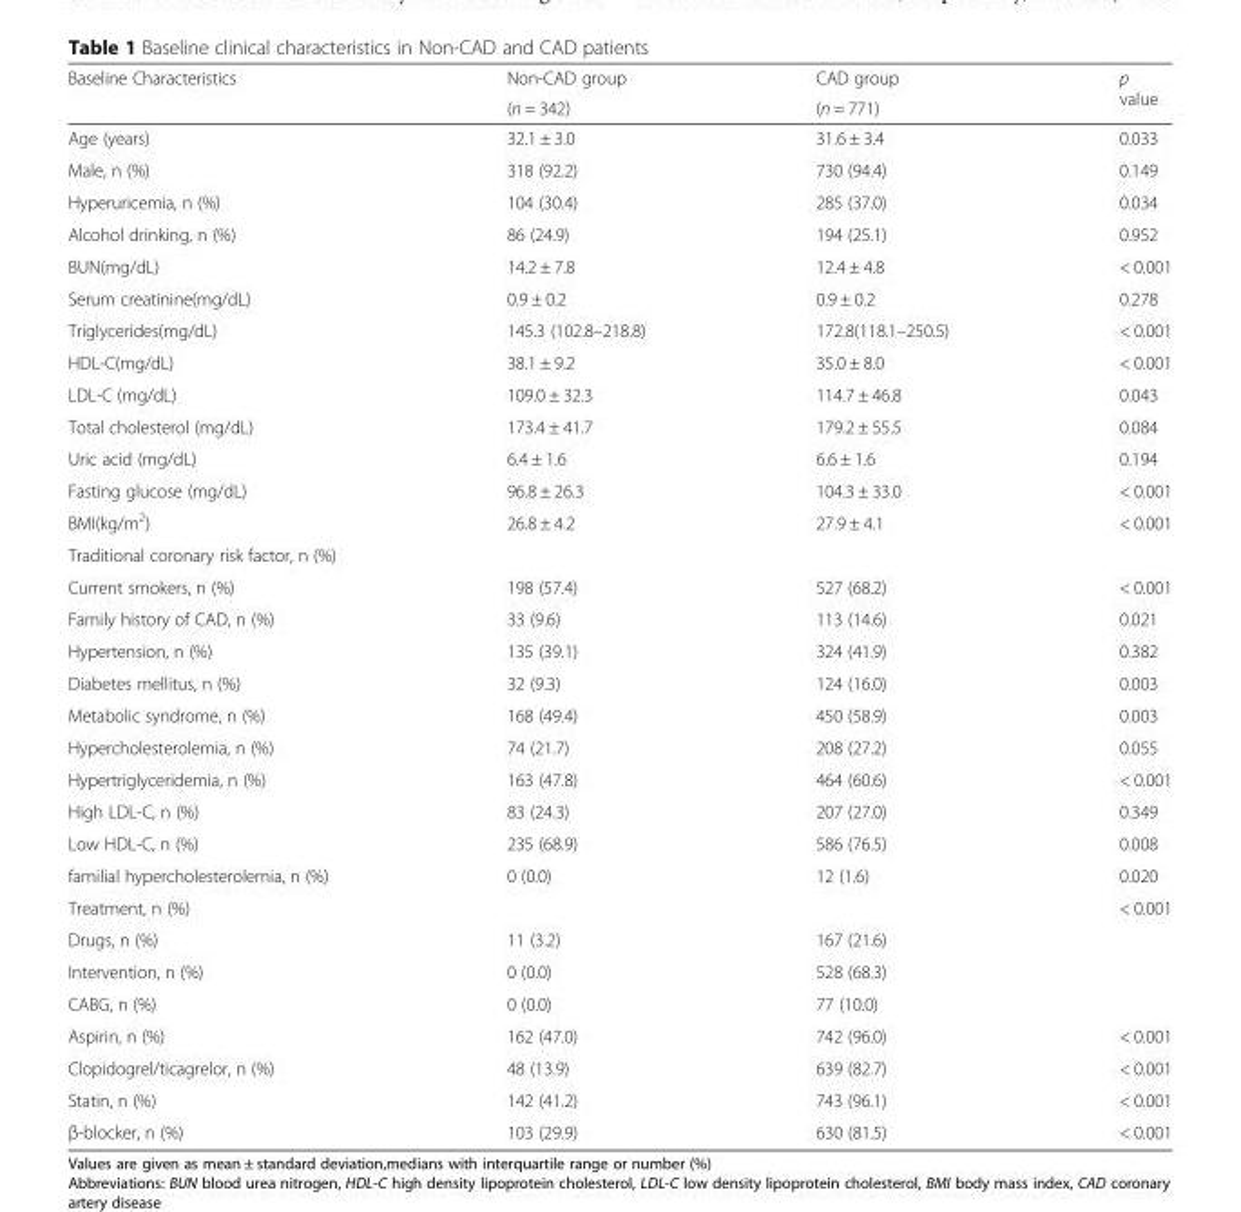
<table><thead><tr><td rowspan="2">Baseline Characteristics</td><td rowspan="2">Non-CAD group (n = 342)</td><td rowspan="2">CAD group (n = 771)</td><td rowspan="2">p value</td></tr><tr></tr></thead><tbody><tr><td>Age (years)</td><td>32.1 ± 3.0</td><td>31.6 ± 3.4</td><td>0.033</td></tr><tr><td>Male, n (%)</td><td>318 (92.2)</td><td>730 (94.4)</td><td>0.149</td></tr><tr><td>Hyperuricemia, n (%)</td><td>104 (30.4)</td><td>285 (37.0)</td><td>0.034</td></tr><tr><td>Alcohol drinking, n (%)</td><td>86 (24.9)</td><td>194 (25.1)</td><td>0.952</td></tr><tr><td>BUN(mg/dL)</td><td>14.2 ± 7.8</td><td>12.4 ± 4.8</td><td>&lt; 0.001</td></tr><tr><td>Serum creatinine(mg/dL)</td><td>0.9 ± 0.2</td><td>0.9 ± 0.2</td><td>0.278</td></tr><tr><td>Triglycerides(mg/dL)</td><td>145.3 (102.8–218.8)</td><td>172.8(118.1–250.5)</td><td>&lt; 0.001</td></tr><tr><td>HDL-C(mg/dL)</td><td>38.1 ± 9.2</td><td>35.0 ± 8.0</td><td>&lt; 0.001</td></tr><tr><td>LDL-C (mg/dL)</td><td>109.0 ± 32.3</td><td>114.7 ± 46.8</td><td>0.043</td></tr><tr><td>Total cholesterol (mg/dL)</td><td>173.4 ± 41.7</td><td>179.2 ± 55.5</td><td>0.084</td></tr><tr><td>Uric acid (mg/dL)</td><td>6.4 ± 1.6</td><td>6.6 ± 1.6</td><td>0.194</td></tr><tr><td>Fasting glucose (mg/dL)</td><td>96.8 ± 26.3</td><td>104.3 ± 33.0</td><td>&lt; 0.001</td></tr><tr><td>BMI(kg/m<sup>2</sup>)</td><td>26.8 ± 4.2</td><td>27.9 ± 4.1</td><td>&lt; 0.001</td></tr><tr><td colspan="4">Traditional coronary risk factor, n (%)</td></tr><tr><td>Current smokers, n (%)</td><td>198 (57.4)</td><td>527 (68.2)</td><td>&lt; 0.001</td></tr><tr><td>Family history of CAD, n (%)</td><td>33 (9.6)</td><td>113 (14.6)</td><td>0.021</td></tr><tr><td>Hypertension, n (%)</td><td>135 (39.1)</td><td>324 (41.9)</td><td>0.382</td></tr><tr><td>Diabetes mellitus, n (%)</td><td>32 (9.3)</td><td>124 (16.0)</td><td>0.003</td></tr><tr><td>Metabolic syndrome, n (%)</td><td>168 (49.4)</td><td>450 (58.9)</td><td>0.003</td></tr><tr><td>Hypercholesterolemia, n (%)</td><td>74 (21.7)</td><td>208 (27.2)</td><td>0.055</td></tr><tr><td>Hypertriglyceridemia, n (%)</td><td>163 (47.8)</td><td>464 (60.6)</td><td>&lt; 0.001</td></tr><tr><td>High LDL-C, n (%)</td><td>83 (24.3)</td><td>207 (27.0)</td><td>0.349</td></tr><tr><td>Low HDL-C, n (%)</td><td>235 (68.9)</td><td>586 (76.5)</td><td>0.008</td></tr><tr><td>familial hypercholesterolemia, n (%)</td><td>0 (0.0)</td><td>12 (1.6)</td><td>0.020</td></tr><tr><td>Treatment, n (%)</td><td></td><td></td><td>&lt; 0.001</td></tr><tr><td>Drugs, n (%)</td><td>11 (3.2)</td><td>167 (21.6)</td><td></td></tr><tr><td>Intervention, n (%)</td><td>0 (0.0)</td><td>528 (68.3)</td><td></td></tr><tr><td>CABG, n (%)</td><td>0 (0.0)</td><td>77 (10.0)</td><td></td></tr><tr><td>Aspirin, n (%)</td><td>162 (47.0)</td><td>742 (96.0)</td><td>&lt; 0.001</td></tr><tr><td>Clopidogrel/ticagrelor, n (%)</td><td>48 (13.9)</td><td>639 (82.7)</td><td>&lt; 0.001</td></tr><tr><td>Statin, n (%)</td><td>142 (41.2)</td><td>743 (96.1)</td><td>&lt; 0.001</td></tr><tr><td>β-blocker, n (%)</td><td>103 (29.9)</td><td>630 (81.5)</td><td>&lt; 0.001</td></tr></tbody></table>